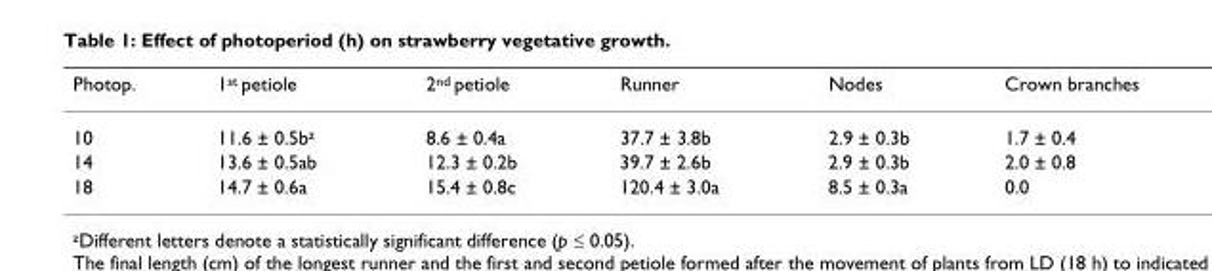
<table><thead><tr><td>Photop.</td><td>1<sup>st</sup> petiole</td><td>2<sup>nd</sup> petiole</td><td>Runner</td><td>Nodes</td><td>Crown branches</td></tr></thead><tbody><tr><td>10</td><td>11.6 ± 0.5b<sup>z</sup></td><td>8.6 ± 0.4a</td><td>37.7 ± 3.8b</td><td>2.9 ± 0.3b</td><td>1.7 ± 0.4</td></tr><tr><td>14</td><td>13.6 ± 0.5ab</td><td>12.3 ± 0.2b</td><td>39.7 ± 2.6b</td><td>2.9 ± 0.3b</td><td>2.0 ± 0.8</td></tr><tr><td>18</td><td>14.7 ± 0.6a</td><td>15.4 ± 0.8c</td><td>120.4 ± 3.0a</td><td>8.5 ± 0.3a</td><td>0.0</td></tr></tbody></table>